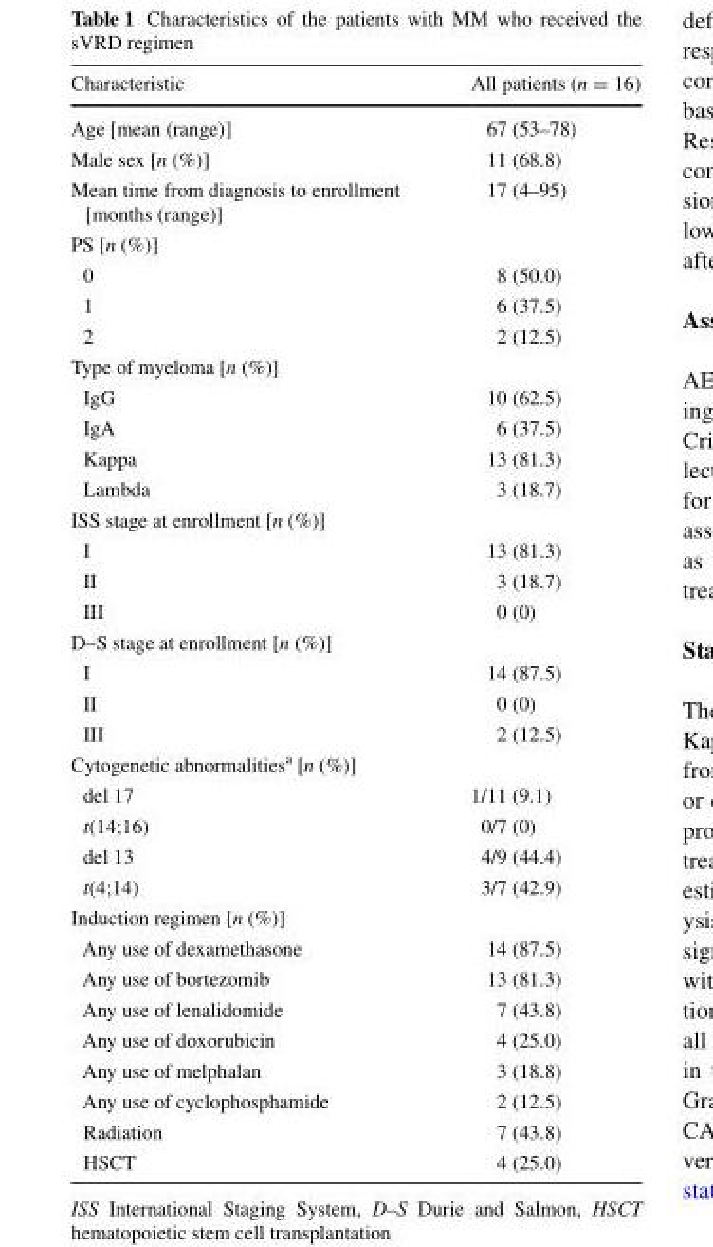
<table><thead><tr><td>Characteristic</td><td>All patients (n = 16)</td></tr></thead><tbody><tr><td>Age [mean (range)]</td><td>67 (53–78)</td></tr><tr><td>Male sex [n (%)]</td><td>11 (68.8)</td></tr><tr><td>Mean time from diagnosis to enrollment [months (range)]</td><td>17 (4–95)</td></tr><tr><td colspan="2">PS [n (%)]</td></tr><tr><td>0</td><td>8 (50.0)</td></tr><tr><td>1</td><td>6 (37.5)</td></tr><tr><td>2</td><td>2 (12.5)</td></tr><tr><td colspan="2">Type of myeloma [n (%)]</td></tr><tr><td>IgG</td><td>10 (62.5)</td></tr><tr><td>IgA</td><td>6 (37.5)</td></tr><tr><td>Kappa</td><td>13 (81.3)</td></tr><tr><td>Lambda</td><td>3 (18.7)</td></tr><tr><td colspan="2">ISS stage at enrollment [n (%)]</td></tr><tr><td>I</td><td>13 (81.3)</td></tr><tr><td>II</td><td>3 (18.7)</td></tr><tr><td>III</td><td>0 (0)</td></tr><tr><td colspan="2">D–S stage at enrollment [n (%)]</td></tr><tr><td>I</td><td>14 (87.5)</td></tr><tr><td>II</td><td>0 (0)</td></tr><tr><td>III</td><td>2 (12.5)</td></tr><tr><td colspan="2">Cytogenetic abnormalities<sup>a</sup> [n (%)]</td></tr><tr><td>del 17</td><td>1/11 (9.1)</td></tr><tr><td>t(14;16)</td><td>0/7 (0)</td></tr><tr><td>del 13</td><td>4/9 (44.4)</td></tr><tr><td>t(4;14)</td><td>3/7 (42.9)</td></tr><tr><td colspan="2">Induction regimen [n (%)]</td></tr><tr><td>Any use of dexamethasone</td><td>14 (87.5)</td></tr><tr><td>Any use of bortezomib</td><td>13 (81.3)</td></tr><tr><td>Any use of lenalidomide</td><td>7 (43.8)</td></tr><tr><td>Any use of doxorubicin</td><td>4 (25.0)</td></tr><tr><td>Any use of melphalan</td><td>3 (18.8)</td></tr><tr><td>Any use of cyclophosphamide</td><td>2 (12.5)</td></tr><tr><td>Radiation</td><td>7 (43.8)</td></tr><tr><td>HSCT</td><td>4 (25.0)</td></tr></tbody></table>